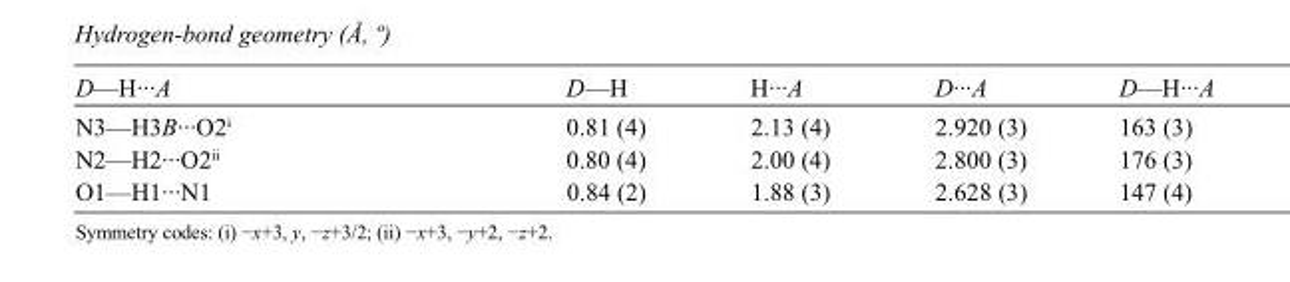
<table><tbody><tr><td>D—H···A</td><td>D—H</td><td>H···A</td><td>D···A</td><td>D—H···A</td></tr><tr><td>N3—H3B···O2<sup>i</sup></td><td>0.81 (4)</td><td>2.13 (4)</td><td>2.920 (3)</td><td>163 (3)</td></tr><tr><td>N2—H2···O2<sup>ii</sup></td><td>0.80 (4)</td><td>2.00 (4)</td><td>2.800 (3)</td><td>176 (3)</td></tr><tr><td>O1—H1···N1</td><td>0.84 (2)</td><td>1.88 (3)</td><td>2.628 (3)</td><td>147 (4)</td></tr></tbody></table>